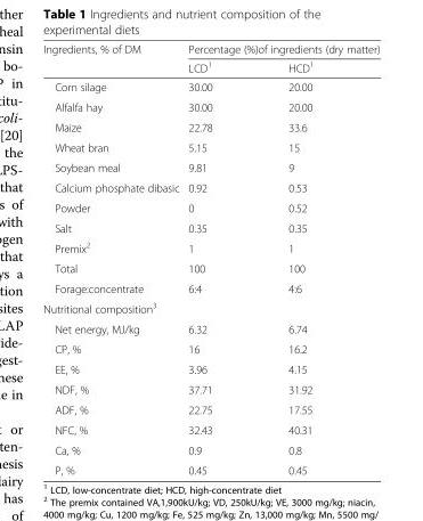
<table><thead><tr><td rowspan="2">Ingredients, % of DM</td><td colspan="2">Percentage (%)of ingredients (dry matter)</td></tr><tr><td>LCD<sup>1</sup></td><td>HCD<sup>1</sup></td></tr></thead><tbody><tr><td>Corn silage</td><td>30.00</td><td>20.00</td></tr><tr><td>Alfalfa hay</td><td>30.00</td><td>20.00</td></tr><tr><td>Maize</td><td>22.78</td><td>33.6</td></tr><tr><td>Wheat bran</td><td>5.15</td><td>15</td></tr><tr><td>Soybean meal</td><td>9.81</td><td>9</td></tr><tr><td>Calcium phosphate dibasic</td><td>0.92</td><td>0.53</td></tr><tr><td>Powder</td><td>0</td><td>0.52</td></tr><tr><td>Salt</td><td>0.35</td><td>0.35</td></tr><tr><td>Premix<sup>2</sup></td><td>1</td><td>1</td></tr><tr><td>Total</td><td>100</td><td>100</td></tr><tr><td>Forage:concentrate</td><td>6:4</td><td>4:6</td></tr><tr><td colspan="3">Nutritional composition<sup>3</sup></td></tr><tr><td>Net energy, MJ/kg</td><td>6.32</td><td>6.74</td></tr><tr><td>CP, %</td><td>16</td><td>16.2</td></tr><tr><td>EE, %</td><td>3.96</td><td>4.15</td></tr><tr><td>NDF, %</td><td>37.71</td><td>31.92</td></tr><tr><td>ADF, %</td><td>22.75</td><td>17.55</td></tr><tr><td>NFC, %</td><td>32.43</td><td>40.31</td></tr><tr><td>Ca, %</td><td>0.9</td><td>0.8</td></tr><tr><td>P, %</td><td>0.45</td><td>0.45</td></tr></tbody></table>